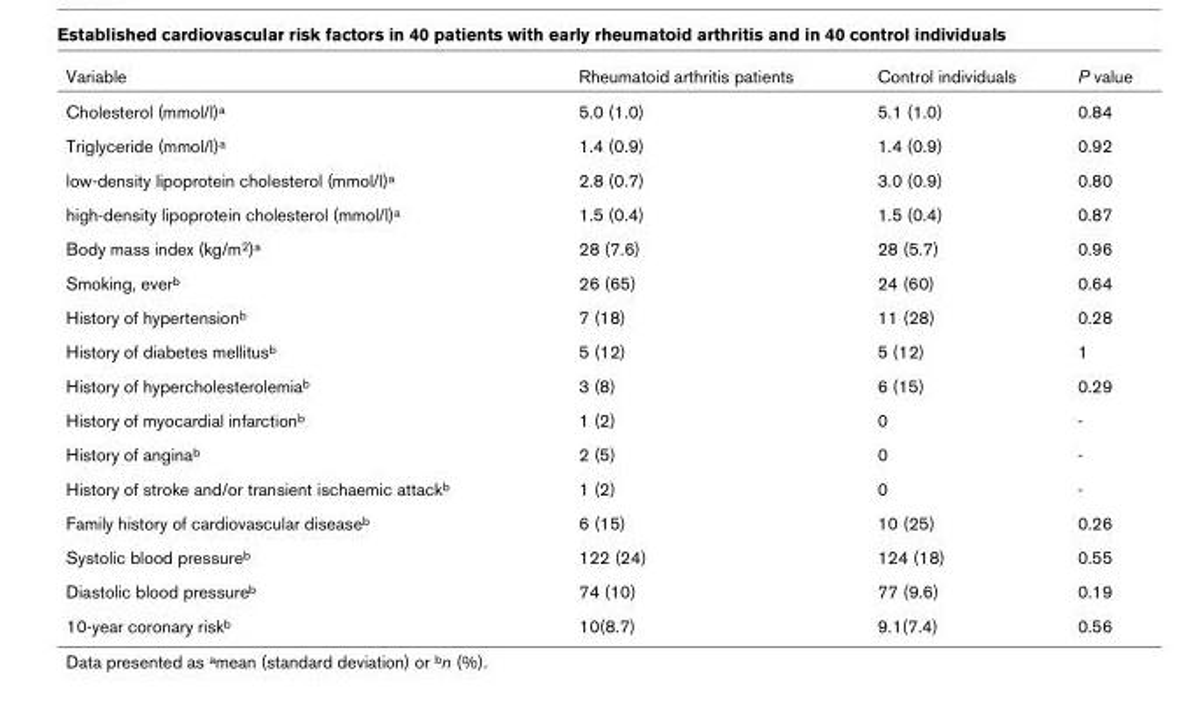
<table><thead><tr><td>Variable</td><td>Rheumatoid arthritis patients</td><td>Control individuals</td><td>P value</td></tr></thead><tbody><tr><td>Cholesterol (mmol/l)<sup>a</sup></td><td>5.0 (1.0)</td><td>5.1 (1.0)</td><td>0.84</td></tr><tr><td>Triglyceride (mmol/l)<sup>a</sup></td><td>1.4 (0.9)</td><td>1.4 (0.9)</td><td>0.92</td></tr><tr><td>low-density lipoprotein cholesterol (mmol/l)<sup>a</sup></td><td>2.8 (0.7)</td><td>3.0 (0.9)</td><td>0.80</td></tr><tr><td>high-density lipoprotein cholesterol (mmol/l)<sup>a</sup></td><td>1.5 (0.4)</td><td>1.5 (0.4)</td><td>0.87</td></tr><tr><td>Body mass index (kg/m<sup>2</sup>)<sup>a</sup></td><td>28 (7.6)</td><td>28 (5.7)</td><td>0.96</td></tr><tr><td>Smoking, ever<sup>b</sup></td><td>26 (65)</td><td>24 (60)</td><td>0.64</td></tr><tr><td>History of hypertension<sup>b</sup></td><td>7 (18)</td><td>11 (28)</td><td>0.28</td></tr><tr><td>History of diabetes mellitus<sup>b</sup></td><td>5 (12)</td><td>5 (12)</td><td>1</td></tr><tr><td>History of hypercholesterolemia<sup>b</sup></td><td>3 (8)</td><td>6 (15)</td><td>0.29</td></tr><tr><td>History of myocardial infarction<sup>b</sup></td><td>1 (2)</td><td>0</td><td>-</td></tr><tr><td>History of angina<sup>b</sup></td><td>2 (5)</td><td>0</td><td>-</td></tr><tr><td>History of stroke and/or transient ischaemic attack<sup>b</sup></td><td>1 (2)</td><td>0</td><td>-</td></tr><tr><td>Family history of cardiovascular disease<sup>b</sup></td><td>6 (15)</td><td>10 (25)</td><td>0.26</td></tr><tr><td>Systolic blood pressure<sup>b</sup></td><td>122 (24)</td><td>124 (18)</td><td>0.55</td></tr><tr><td>Diastolic blood pressure<sup>b</sup></td><td>74 (10)</td><td>77 (9.6)</td><td>0.19</td></tr><tr><td>10-year coronary risk<sup>b</sup></td><td>10(8.7)</td><td>9.1(7.4)</td><td>0.56</td></tr></tbody></table>